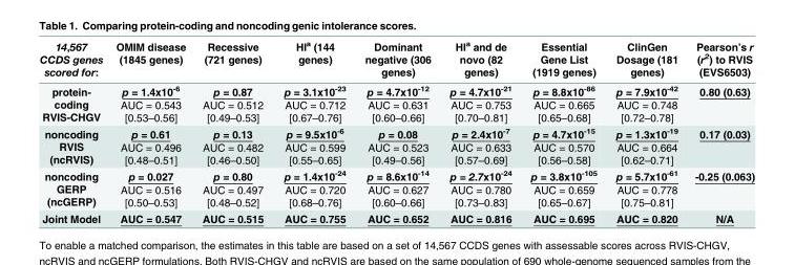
<table><thead><tr><td>14,567 CCDS genes scored for:</td><td>OMIM disease (1845 genes)</td><td>Recessive (721 genes)</td><td>HI<sup>a</sup> (144 genes)</td><td>Dominant negative (306 genes)</td><td>HI<sup>a</sup> and de novo (82 genes)</td><td>Essential Gene List (1919 genes)</td><td>ClinGen Dosage (181 genes)</td><td>Pearson’s r (r<sup>2</sup>) to RVIS (EVS6503)</td></tr></thead><tbody><tr><td>protein- coding RVIS-CHGV</td><td>p = 1.4x10<sup>-6</sup> AUC = 0.543 [0.53–0.56]</td><td>p = 0.87 AUC = 0.512 [0.49–0.53]</td><td>p = 3.1x10<sup>-23</sup> AUC = 0.712 [0.67–0.76]</td><td>p = 4.7x10<sup>-12</sup> AUC = 0.631 [0.60–0.66]</td><td>p = 4.7x10<sup>-21</sup> AUC = 0.753 [0.70–0.81]</td><td>p = 8.8x10<sup>-86</sup> AUC = 0.665 [0.65–0.68]</td><td>p = 7.9x10<sup>-42</sup> AUC = 0.748 [0.72–0.78]</td><td>0.80 (0.63)</td></tr><tr><td>noncoding RVIS (ncRVIS)</td><td>p = 0.61 AUC = 0.496 [0.48–0.51]</td><td>p = 0.13 AUC = 0.482 [0.46–0.50]</td><td>p = 9.5x10<sup>-6</sup> AUC = 0.599 [0.55–0.65]</td><td>p = 0.08 AUC = 0.523 [0.49–0.56]</td><td>p = 2.4x10<sup>-7</sup> AUC = 0.633 [0.57–0.69]</td><td>p = 4.7x10<sup>-15</sup> AUC = 0.570 [0.56–0.58]</td><td>p = 1.3x10<sup>-19</sup> AUC = 0.664 [0.62–0.71]</td><td>0.17 (0.03)</td></tr><tr><td>noncoding GERP (ncGERP)</td><td>p = 0.027 AUC = 0.516 [0.50–0.53]</td><td>p = 0.80 AUC = 0.497 [0.48–0.52]</td><td>p = 1.4x10<sup>-24</sup> AUC = 0.720 [0.68–0.76]</td><td>p = 8.6x10<sup>-14</sup> AUC = 0.627 [0.60–0.66]</td><td>p = 2.7x10<sup>-24</sup> AUC = 0.780 [0.73–0.83]</td><td>p = 3.8x10<sup>-105</sup> AUC = 0.659 [0.65–0.67]</td><td>p = 5.7x10<sup>-61</sup> AUC = 0.778 [0.75–0.81]</td><td>-0.25 (0.063)</td></tr><tr><td>Joint Model</td><td>AUC = 0.547</td><td>AUC = 0.515</td><td>AUC = 0.755</td><td>AUC = 0.652</td><td>AUC = 0.816</td><td>AUC = 0.695</td><td>AUC = 0.820</td><td>N/A</td></tr></tbody></table>